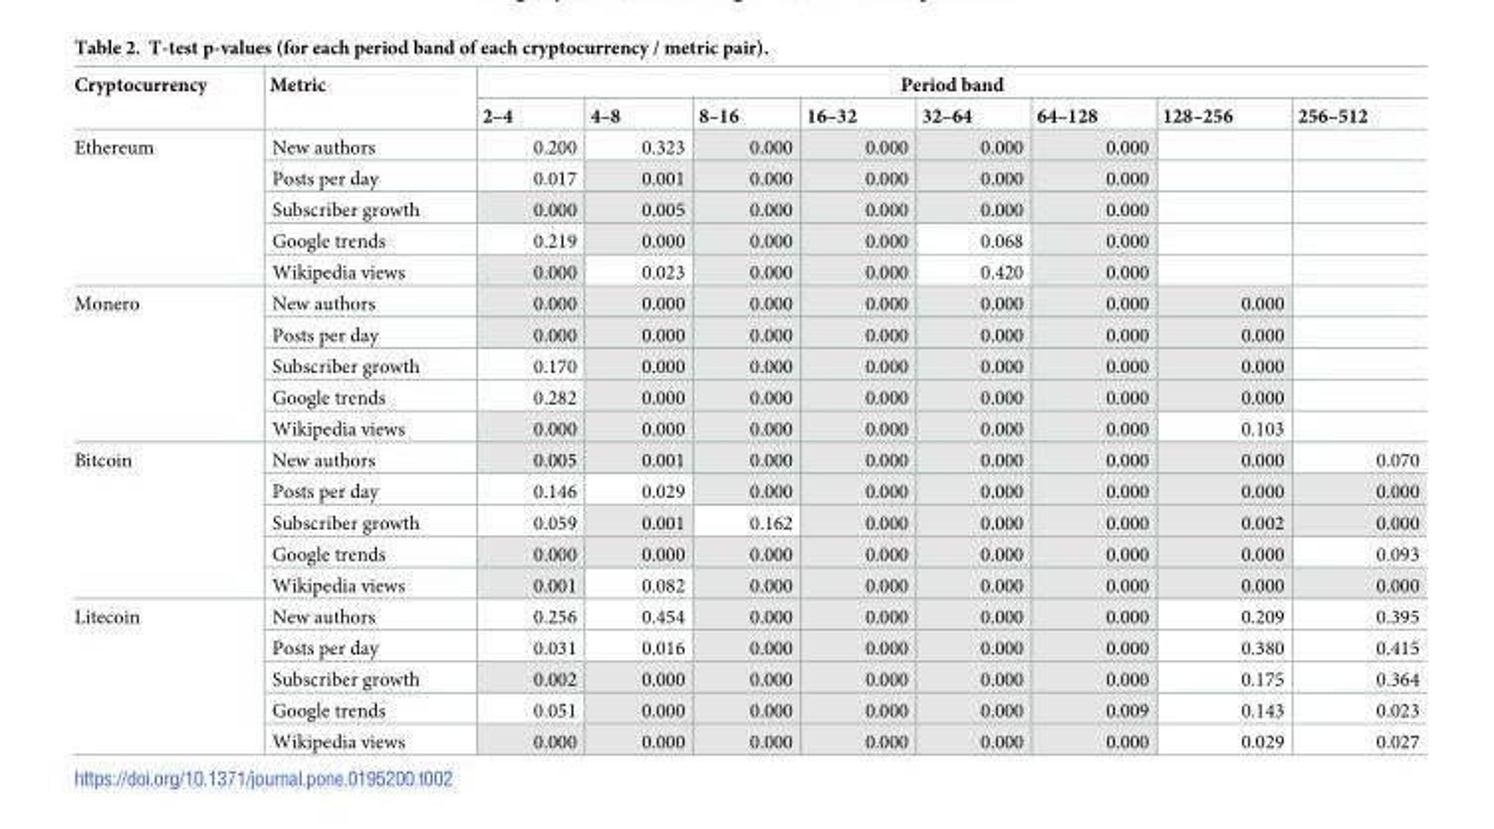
<table><thead><tr><td rowspan="2">Cryptocurrency</td><td rowspan="2">Metric</td><td colspan="8">Period band</td></tr><tr><td>2–4</td><td>4–8</td><td>8–16</td><td>16–32</td><td>32–64</td><td>64–128</td><td>128–256</td><td>256–512</td></tr></thead><tbody><tr><td rowspan="5">Ethereum</td><td>New authors</td><td>0.200</td><td>0.323</td><td>0.000</td><td>0.000</td><td>0.000</td><td>0.000</td><td></td><td></td></tr><tr><td>Posts per day</td><td>0.017</td><td>0.001</td><td>0.000</td><td>0.000</td><td>0.000</td><td>0.000</td><td></td><td></td></tr><tr><td>Subscriber growth</td><td>0.000</td><td>0.005</td><td>0.000</td><td>0.000</td><td>0.000</td><td>0.000</td><td></td><td></td></tr><tr><td>Google trends</td><td>0.219</td><td>0.000</td><td>0.000</td><td>0.000</td><td>0.068</td><td>0.000</td><td></td><td></td></tr><tr><td>Wikipedia views</td><td>0.000</td><td>0.023</td><td>0.000</td><td>0.000</td><td>0.420</td><td>0.000</td><td></td><td></td></tr><tr><td rowspan="5">Monero</td><td>New authors</td><td>0.000</td><td>0.000</td><td>0.000</td><td>0.000</td><td>0.000</td><td>0.000</td><td>0.000</td><td></td></tr><tr><td>Posts per day</td><td>0.000</td><td>0.000</td><td>0.000</td><td>0.000</td><td>0.000</td><td>0.000</td><td>0.000</td><td></td></tr><tr><td>Subscriber growth</td><td>0.170</td><td>0.000</td><td>0.000</td><td>0.000</td><td>0.000</td><td>0.000</td><td>0.000</td><td></td></tr><tr><td>Google trends</td><td>0.282</td><td>0.000</td><td>0.000</td><td>0.000</td><td>0.000</td><td>0.000</td><td>0.000</td><td></td></tr><tr><td>Wikipedia views</td><td>0.000</td><td>0.000</td><td>0.000</td><td>0.000</td><td>0.000</td><td>0.000</td><td>0.103</td><td></td></tr><tr><td rowspan="5">Bitcoin</td><td>New authors</td><td>0.005</td><td>0.001</td><td>0.000</td><td>0.000</td><td>0.000</td><td>0.000</td><td>0.000</td><td>0.070</td></tr><tr><td>Posts per day</td><td>0.146</td><td>0.029</td><td>0.000</td><td>0.000</td><td>0.000</td><td>0.000</td><td>0.000</td><td>0.000</td></tr><tr><td>Subscriber growth</td><td>0.059</td><td>0.001</td><td>0.162</td><td>0.000</td><td>0.000</td><td>0.000</td><td>0.002</td><td>0.000</td></tr><tr><td>Google trends</td><td>0.000</td><td>0.000</td><td>0.000</td><td>0.000</td><td>0.000</td><td>0.000</td><td>0.000</td><td>0.093</td></tr><tr><td>Wikipedia views</td><td>0.001</td><td>0.082</td><td>0.000</td><td>0.000</td><td>0.000</td><td>0.000</td><td>0.000</td><td>0.000</td></tr><tr><td rowspan="5">Litecoin</td><td>New authors</td><td>0.256</td><td>0.454</td><td>0.000</td><td>0.000</td><td>0.000</td><td>0.000</td><td>0.209</td><td>0.395</td></tr><tr><td>Posts per day</td><td>0.031</td><td>0.016</td><td>0.000</td><td>0.000</td><td>0.000</td><td>0.000</td><td>0.380</td><td>0.415</td></tr><tr><td>Subscriber growth</td><td>0.002</td><td>0.000</td><td>0.000</td><td>0.000</td><td>0.000</td><td>0.000</td><td>0.175</td><td>0.364</td></tr><tr><td>Google trends</td><td>0.051</td><td>0.000</td><td>0.000</td><td>0.000</td><td>0.000</td><td>0.009</td><td>0.143</td><td>0.023</td></tr><tr><td>Wikipedia views</td><td>0.000</td><td>0.000</td><td>0.000</td><td>0.000</td><td>0.000</td><td>0.000</td><td>0.029</td><td>0.027</td></tr></tbody></table>